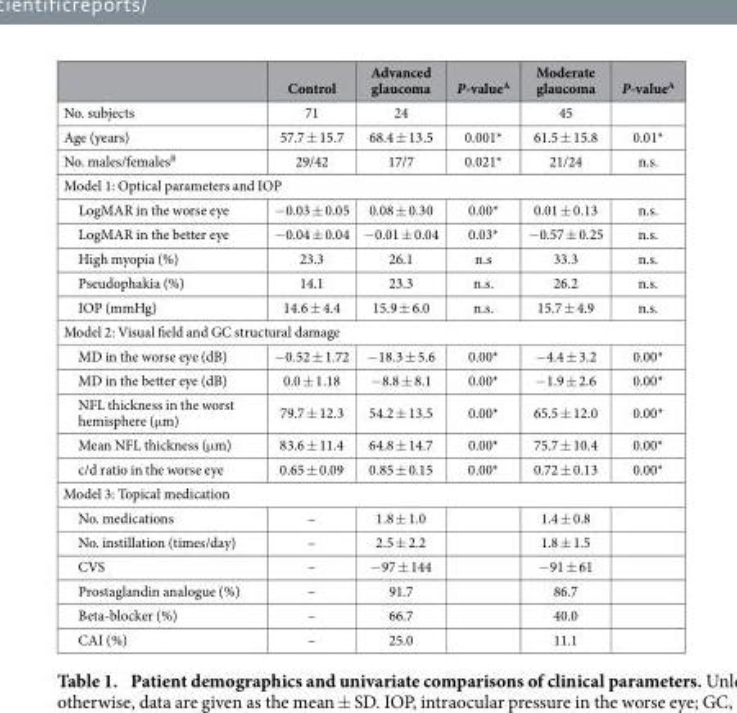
<table><thead><tr><td></td><td>Control</td><td>Advanced glaucoma</td><td>P-value<sup>A</sup></td><td>Moderate glaucoma</td><td>P-value<sup>A</sup></td></tr></thead><tbody><tr><td>No. subjects</td><td>71</td><td>24</td><td></td><td>45</td><td></td></tr><tr><td>Age (years)</td><td>57.7 ± 15.7</td><td>68.4 ± 13.5</td><td>0.001*</td><td>61.5 ± 15.8</td><td>0.01*</td></tr><tr><td>No. males/females<sup>B</sup></td><td>29/42</td><td>17/7</td><td>0.021*</td><td>21/24</td><td>n.s.</td></tr><tr><td colspan="6">Model 1: Optical parameters and IOP</td></tr><tr><td>LogMAR in the worse eye</td><td>− 0.03 ± 0.05</td><td>0.08 ± 0.30</td><td>0.00*</td><td>0.01 ± 0.13</td><td>n.s.</td></tr><tr><td>LogMAR in the better eye</td><td>− 0.04 ± 0.04</td><td>− 0.01 ± 0.04</td><td>0.03*</td><td>− 0.57 ± 0.25</td><td>n.s.</td></tr><tr><td>High myopia (%)</td><td>23.3</td><td>26.1</td><td>n.s</td><td>33.3</td><td>n.s.</td></tr><tr><td>Pseudophakia (%)</td><td>14.1</td><td>23.3</td><td>n.s.</td><td>26.2</td><td>n.s.</td></tr><tr><td>IOP (mmHg)</td><td>14.6 ± 4.4</td><td>15.9 ± 6.0</td><td>n.s.</td><td>15.7 ± 4.9</td><td>n.s.</td></tr><tr><td colspan="6">Model 2: Visual field and GC structural damage</td></tr><tr><td>MD in the worse eye (dB)</td><td>− 0.52 ± 1.72</td><td>− 18.3 ± 5.6</td><td>0.00*</td><td>− 4.4 ± 3.2</td><td>0.00*</td></tr><tr><td>MD in the better eye (dB)</td><td>0.0 ± 1.18</td><td>− 8.8 ± 8.1</td><td>0.00*</td><td>− 1.9 ± 2.6</td><td>0.00*</td></tr><tr><td>NFL thickness in the worst hemisphere (μ m)</td><td>79.7 ± 12.3</td><td>54.2 ± 13.5</td><td>0.00*</td><td>65.5 ± 12.0</td><td>0.00*</td></tr><tr><td>Mean NFL thickness (μ m)</td><td>83.6 ± 11.4</td><td>64.8 ± 14.7</td><td>0.00*</td><td>75.7 ± 10.4</td><td>0.00*</td></tr><tr><td>c/d ratio in the worse eye</td><td>0.65 ± 0.09</td><td>0.85 ± 0.15</td><td>0.00*</td><td>0.72 ± 0.13</td><td>0.00*</td></tr><tr><td colspan="6">Model 3: Topical medication</td></tr><tr><td>No. medications</td><td>–</td><td>1.8 ± 1.0</td><td></td><td>1.4 ± 0.8</td><td></td></tr><tr><td>No. instillation (times/day)</td><td>–</td><td>2.5 ± 2.2</td><td></td><td>1.8 ± 1.5</td><td></td></tr><tr><td>CVS</td><td>–</td><td>− 97 ± 144</td><td></td><td>− 91 ± 61</td><td></td></tr><tr><td>Prostaglandin analogue (%)</td><td>–</td><td>91.7</td><td></td><td>86.7</td><td></td></tr><tr><td>Beta-blocker (%)</td><td>–</td><td>66.7</td><td></td><td>40.0</td><td></td></tr><tr><td>CAI (%)</td><td>–</td><td>25.0</td><td></td><td>11.1</td><td></td></tr></tbody></table>